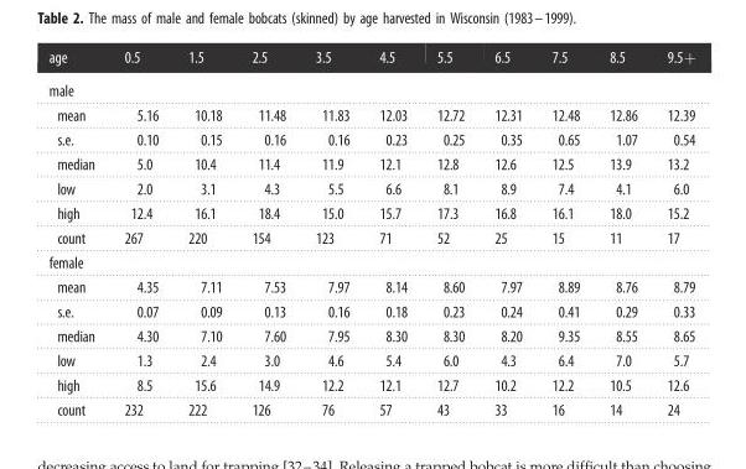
<table><thead><tr><td>age</td><td>0.5</td><td>1.5</td><td>2.5</td><td>3.5</td><td>4.5</td><td>5.5</td><td>6.5</td><td>7.5</td><td>8.5</td><td>9.5+</td></tr></thead><tbody><tr><td colspan="11">male</td></tr><tr><td>mean</td><td>5.16</td><td>10.18</td><td>11.48</td><td>11.83</td><td>12.03</td><td>12.72</td><td>12.31</td><td>12.48</td><td>12.86</td><td>12.39</td></tr><tr><td>s.e.</td><td>0.10</td><td>0.15</td><td>0.16</td><td>0.16</td><td>0.23</td><td>0.25</td><td>0.35</td><td>0.65</td><td>1.07</td><td>0.54</td></tr><tr><td>median</td><td>5.0</td><td>10.4</td><td>11.4</td><td>11.9</td><td>12.1</td><td>12.8</td><td>12.6</td><td>12.5</td><td>13.9</td><td>13.2</td></tr><tr><td>low</td><td>2.0</td><td>3.1</td><td>4.3</td><td>5.5</td><td>6.6</td><td>8.1</td><td>8.9</td><td>7.4</td><td>4.1</td><td>6.0</td></tr><tr><td>high</td><td>12.4</td><td>16.1</td><td>18.4</td><td>15.0</td><td>15.7</td><td>17.3</td><td>16.8</td><td>16.1</td><td>18.0</td><td>15.2</td></tr><tr><td>count</td><td>267</td><td>220</td><td>154</td><td>123</td><td>71</td><td>52</td><td>25</td><td>15</td><td>11</td><td>17</td></tr><tr><td colspan="11">female</td></tr><tr><td>mean</td><td>4.35</td><td>7.11</td><td>7.53</td><td>7.97</td><td>8.14</td><td>8.60</td><td>7.97</td><td>8.89</td><td>8.76</td><td>8.79</td></tr><tr><td>s.e.</td><td>0.07</td><td>0.09</td><td>0.13</td><td>0.16</td><td>0.18</td><td>0.23</td><td>0.24</td><td>0.41</td><td>0.29</td><td>0.33</td></tr><tr><td>median</td><td>4.30</td><td>7.10</td><td>7.60</td><td>7.95</td><td>8.30</td><td>8.30</td><td>8.20</td><td>9.35</td><td>8.55</td><td>8.65</td></tr><tr><td>low</td><td>1.3</td><td>2.4</td><td>3.0</td><td>4.6</td><td>5.4</td><td>6.0</td><td>4.3</td><td>6.4</td><td>7.0</td><td>5.7</td></tr><tr><td>high</td><td>8.5</td><td>15.6</td><td>14.9</td><td>12.2</td><td>12.1</td><td>12.7</td><td>10.2</td><td>12.2</td><td>10.5</td><td>12.6</td></tr><tr><td>count</td><td>232</td><td>222</td><td>126</td><td>76</td><td>57</td><td>43</td><td>33</td><td>16</td><td>14</td><td>24</td></tr></tbody></table>